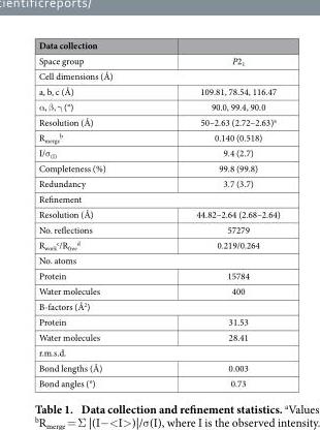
<table><thead><tr><td>Data collection</td><td></td></tr></thead><tbody><tr><td>Space group</td><td>P2<sub>1</sub></td></tr><tr><td colspan="2">Cell dimensions (Å)</td></tr><tr><td>a, b, c (Å)</td><td>109.81, 78.54, 116.47</td></tr><tr><td>α , β , γ (°)</td><td>90.0, 99.4, 90.0</td></tr><tr><td>Resolution (Å)</td><td>50–2.63 (2.72–2.63)<sup>a</sup></td></tr><tr><td>R<sub>merge</sub> <sup>b</sup></td><td>0.140 (0.518)</td></tr><tr><td>I/σ <sub>(I)</sub></td><td>9.4 (2.7)</td></tr><tr><td>Completeness (%)</td><td>99.8 (99.8)</td></tr><tr><td>Redundancy</td><td>3.7 (3.7)</td></tr><tr><td colspan="2">Refinement</td></tr><tr><td>Resolution (Å)</td><td>44.82–2.64 (2.68–2.64)</td></tr><tr><td>No. reflections</td><td>57279</td></tr><tr><td>R<sub>work</sub> <sup>c</sup>/R<sub>free</sub> <sup>d</sup></td><td>0.219/0.264</td></tr><tr><td colspan="2">No. atoms</td></tr><tr><td>Protein</td><td>15784</td></tr><tr><td>Water molecules</td><td>400</td></tr><tr><td colspan="2">B-factors (Å<sup>2</sup>)</td></tr><tr><td>Protein</td><td>31.53</td></tr><tr><td>Water molecules</td><td>28.41</td></tr><tr><td colspan="2">r.m.s.d.</td></tr><tr><td>Bond lengths (Å)</td><td>0.003</td></tr><tr><td>Bond angles (°)</td><td>0.73</td></tr></tbody></table>